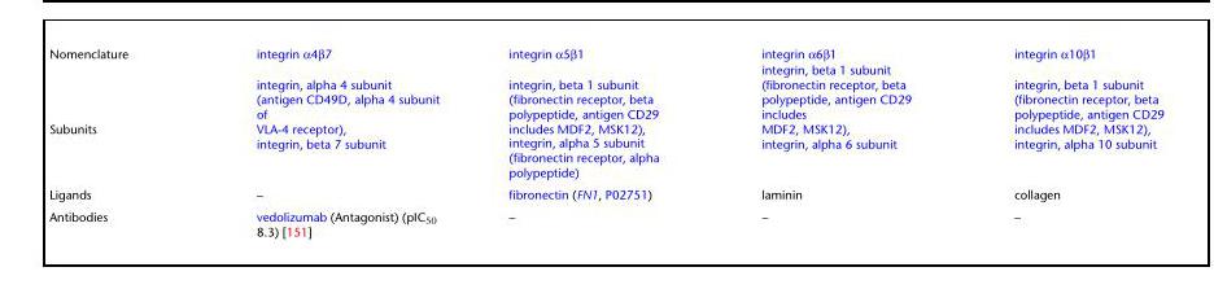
<table><tbody><tr><td>Nomenclature</td><td>integrin α4β7</td><td>integrin α5β1</td><td>integrin α6β1</td><td>integrin α10β1</td></tr><tr><td>Subunits</td><td>integrin, alpha 4 subunit (antigen CD49D, alpha 4 subunit of VLA-4 receptor), integrin, beta 7 subunit</td><td>integrin, beta 1 subunit (fibronectin receptor, beta polypeptide, antigen CD29 includes MDF2, MSK12), integrin, alpha 5 subunit (fibronectin receptor, alpha polypeptide)</td><td>integrin, beta 1 subunit (fibronectin receptor, beta polypeptide, antigen CD29 includes MDF2, MSK12), integrin, alpha 6 subunit</td><td>integrin, beta 1 subunit (fibronectin receptor, beta polypeptide, antigen CD29 includes MDF2, MSK12), integrin, alpha 10 subunit</td></tr><tr><td>Ligands</td><td>–</td><td>fibronectin (FN1, P02751)</td><td>laminin</td><td>collagen</td></tr><tr><td>Antibodies</td><td>vedolizumab (Antagonist) (pIC50 8.3) [151]</td><td>–</td><td>–</td><td>–</td></tr></tbody></table>